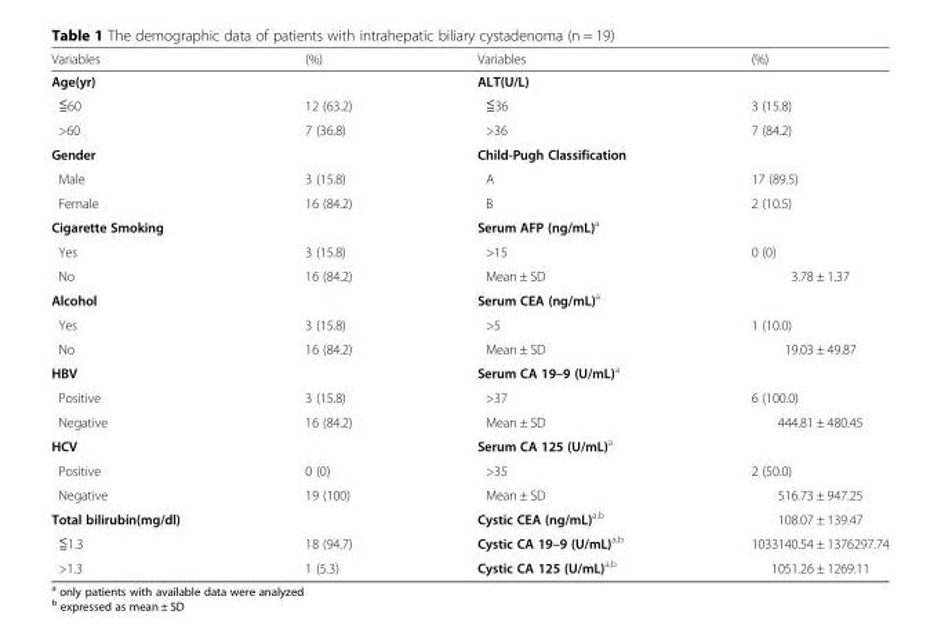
<table><thead><tr><td>Variables</td><td>(%)</td><td>Variables</td><td>(%)</td></tr></thead><tbody><tr><td>Age(yr)</td><td></td><td>ALT(U/L)</td><td></td></tr><tr><td>≦60</td><td>12 (63.2)</td><td>≦36</td><td>3 (15.8)</td></tr><tr><td>&gt;60</td><td>7 (36.8)</td><td>&gt;36</td><td>7 (84.2)</td></tr><tr><td>Gender</td><td></td><td>Child-Pugh Classification</td><td></td></tr><tr><td>Male</td><td>3 (15.8)</td><td>A</td><td>17 (89.5)</td></tr><tr><td>Female</td><td>16 (84.2)</td><td>B</td><td>2 (10.5)</td></tr><tr><td>Cigarette Smoking</td><td></td><td>Serum AFP (ng/mL)<sup>a</sup></td><td></td></tr><tr><td>Yes</td><td>3 (15.8)</td><td>&gt;15</td><td>0 (0)</td></tr><tr><td>No</td><td>16 (84.2)</td><td>Mean ± SD</td><td>3.78 ± 1.37</td></tr><tr><td>Alcohol</td><td></td><td>Serum CEA (ng/mL)<sup>a</sup></td><td></td></tr><tr><td>Yes</td><td>3 (15.8)</td><td>&gt;5</td><td>1 (10.0)</td></tr><tr><td>No</td><td>16 (84.2)</td><td>Mean ± SD</td><td>19.03 ± 49.87</td></tr><tr><td>HBV</td><td></td><td>Serum CA 19–9 (U/mL)<sup>a</sup></td><td></td></tr><tr><td>Positive</td><td>3 (15.8)</td><td>&gt;37</td><td>6 (100.0)</td></tr><tr><td>Negative</td><td>16 (84.2)</td><td>Mean ± SD</td><td>444.81 ± 480.45</td></tr><tr><td>HCV</td><td></td><td>Serum CA 125 (U/mL)<sup>a</sup></td><td></td></tr><tr><td>Positive</td><td>0 (0)</td><td>&gt;35</td><td>2 (50.0)</td></tr><tr><td>Negative</td><td>19 (100)</td><td>Mean ± SD</td><td>516.73 ± 947.25</td></tr><tr><td>Total bilirubin(mg/dl)</td><td></td><td>Cystic CEA (ng/mL)<sup>a,b</sup></td><td>108.07 ± 139.47</td></tr><tr><td>≦1.3</td><td>18 (94.7)</td><td>Cystic CA 19–9 (U/mL)<sup>a,b</sup></td><td>1033140.54 ± 1376297.74</td></tr><tr><td>&gt;1.3</td><td>1 (5.3)</td><td>Cystic CA 125 (U/mL)<sup>a,b</sup></td><td>1051.26 ± 1269.11</td></tr></tbody></table>